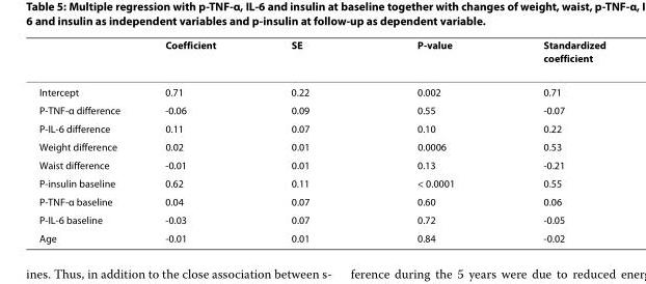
<table><thead><tr><td></td><td>Coefficient</td><td>SE</td><td>P-value</td><td>Standardized coefficient</td></tr></thead><tbody><tr><td>Intercept</td><td>0.71</td><td>0.22</td><td>0.002</td><td>0.71</td></tr><tr><td>P-TNF-α difference</td><td>-0.06</td><td>0.09</td><td>0.55</td><td>-0.07</td></tr><tr><td>P-IL-6 difference</td><td>0.11</td><td>0.07</td><td>0.10</td><td>0.22</td></tr><tr><td>Weight difference</td><td>0.02</td><td>0.01</td><td>0.0006</td><td>0.53</td></tr><tr><td>Waist difference</td><td>-0.01</td><td>0.01</td><td>0.13</td><td>-0.21</td></tr><tr><td>P-insulin baseline</td><td>0.62</td><td>0.11</td><td>&lt; 0.0001</td><td>0.55</td></tr><tr><td>P-TNF-α baseline</td><td>0.04</td><td>0.07</td><td>0.60</td><td>0.06</td></tr><tr><td>P-IL-6 baseline</td><td>-0.03</td><td>0.07</td><td>0.72</td><td>-0.05</td></tr><tr><td>Age</td><td>-0.01</td><td>0.01</td><td>0.84</td><td>-0.02</td></tr></tbody></table>